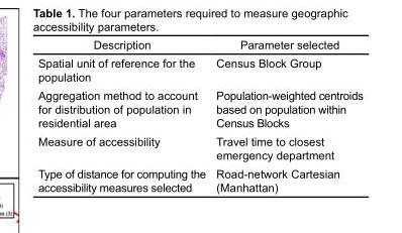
<table><thead><tr><td>Description</td><td>Parameter selected</td></tr></thead><tbody><tr><td>Spatial unit of reference for the population</td><td>Census Block Group</td></tr><tr><td>Aggregation method to account for distribution of population in residential area</td><td>Population-weighted centroids based on population within Census Blocks</td></tr><tr><td>Measure of accessibility</td><td>Travel time to closest emergency department</td></tr><tr><td>Type of distance for computing the accessibility measures selected</td><td>Road-network Cartesian (Manhattan)</td></tr></tbody></table>